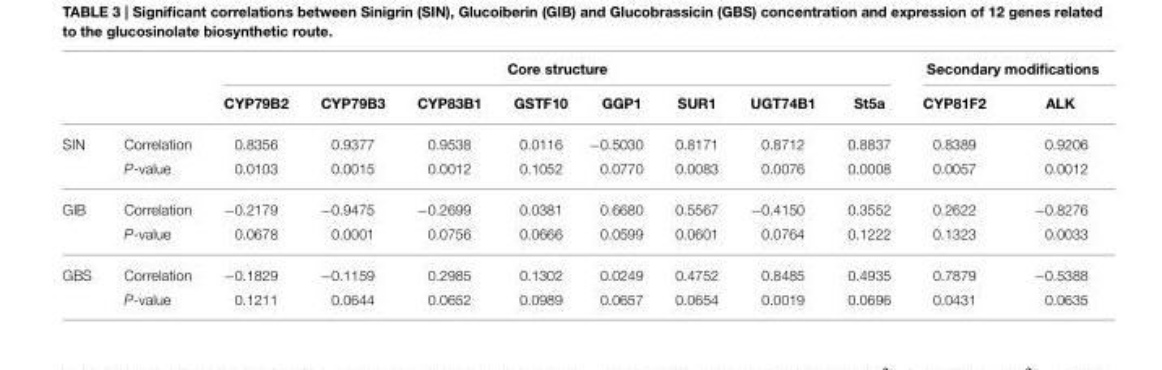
<table><thead><tr><td rowspan="2"></td><td rowspan="2"></td><td colspan="8">Core structure</td><td colspan="2">Secondary modifications</td></tr><tr><td>CYP79B2</td><td>CYP79B3</td><td>CYP83B1</td><td>GSTF10</td><td>GGP1</td><td>SUR1</td><td>UGT74B1</td><td>St5a</td><td>CYP81F2</td><td>ALK</td></tr></thead><tbody><tr><td rowspan="2">SIN</td><td>Correlation</td><td>0.8356</td><td>0.9377</td><td>0.9538</td><td>0.0116</td><td>−0.5030</td><td>0.8171</td><td>0.8712</td><td>0.8837</td><td>0.8389</td><td>0.9206</td></tr><tr><td>P-value</td><td>0.0103</td><td>0.0015</td><td>0.0012</td><td>0.1052</td><td>0.0770</td><td>0.0083</td><td>0.0076</td><td>0.0008</td><td>0.0057</td><td>0.0012</td></tr><tr><td rowspan="2">GIB</td><td>Correlation</td><td>−0.2179</td><td>−0.9475</td><td>−0.2699</td><td>0.0381</td><td>0.6680</td><td>0.5567</td><td>−0.4150</td><td>0.3552</td><td>0.2622</td><td>−0.8276</td></tr><tr><td>P-value</td><td>0.0678</td><td>0.0001</td><td>0.0756</td><td>0.0666</td><td>0.0599</td><td>0.0601</td><td>0.0764</td><td>0.1222</td><td>0.1323</td><td>0.0033</td></tr><tr><td rowspan="2">GBS</td><td>Correlation</td><td>−0.1829</td><td>−0.1159</td><td>0.2985</td><td>0.1302</td><td>0.0249</td><td>0.4752</td><td>0.8485</td><td>0.4935</td><td>0.7879</td><td>−0.5388</td></tr><tr><td>P-value</td><td>0.1211</td><td>0.0644</td><td>0.0652</td><td>0.0989</td><td>0.0657</td><td>0.0654</td><td>0.0019</td><td>0.0696</td><td>0.0431</td><td>0.0635</td></tr></tbody></table>